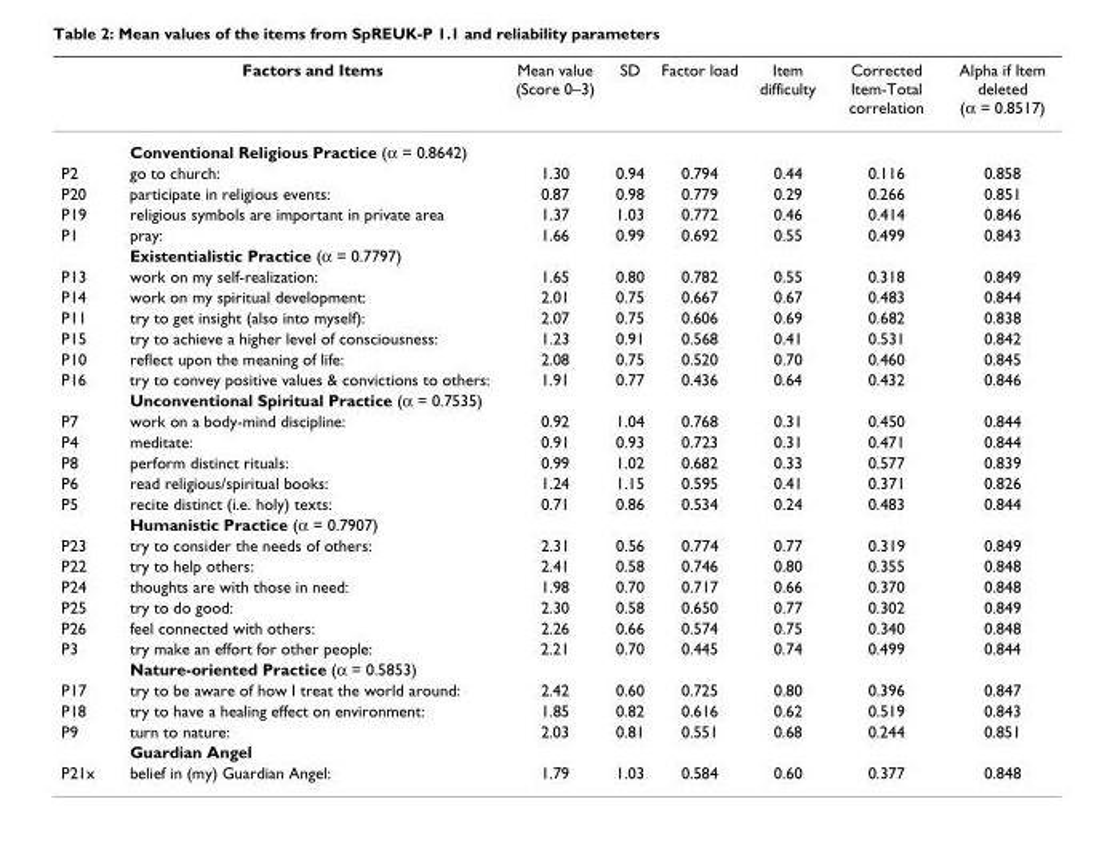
<table><thead><tr><td></td><td>Factors and Items</td><td>Mean value (Score 0–3)</td><td>SD</td><td>Factor load</td><td>Item difficulty</td><td>Corrected Item-Total correlation</td><td>Alpha if Item deleted (α = 0.8517)</td></tr></thead><tbody><tr><td></td><td>Conventional Religious Practice (α = 0.8642)</td><td></td><td></td><td></td><td></td><td></td><td></td></tr><tr><td>P2</td><td>go to church:</td><td>1.30</td><td>0.94</td><td>0.794</td><td>0.44</td><td>0.116</td><td>0.858</td></tr><tr><td>P20</td><td>participate in religious events:</td><td>0.87</td><td>0.98</td><td>0.779</td><td>0.29</td><td>0.266</td><td>0.851</td></tr><tr><td>P19</td><td>religious symbols are important in private area</td><td>1.37</td><td>1.03</td><td>0.772</td><td>0.46</td><td>0.414</td><td>0.846</td></tr><tr><td rowspan="2">P1</td><td>pray:</td><td>1.66</td><td>0.99</td><td>0.692</td><td>0.55</td><td>0.499</td><td>0.843</td></tr><tr><td>Existentialistic Practice (α = 0.7797)</td><td></td><td></td><td></td><td></td><td></td><td></td></tr><tr><td>P13</td><td>work on my self-realization:</td><td>1.65</td><td>0.80</td><td>0.782</td><td>0.55</td><td>0.318</td><td>0.849</td></tr><tr><td>P14</td><td>work on my spiritual development:</td><td>2.01</td><td>0.75</td><td>0.667</td><td>0.67</td><td>0.483</td><td>0.844</td></tr><tr><td>P11</td><td>try to get insight (also into myself):</td><td>2.07</td><td>0.75</td><td>0.606</td><td>0.69</td><td>0.682</td><td>0.838</td></tr><tr><td>P15</td><td>try to achieve a higher level of consciousness:</td><td>1.23</td><td>0.91</td><td>0.568</td><td>0.41</td><td>0.531</td><td>0.842</td></tr><tr><td>P10</td><td>reflect upon the meaning of life:</td><td>2.08</td><td>0.75</td><td>0.520</td><td>0.70</td><td>0.460</td><td>0.845</td></tr><tr><td rowspan="2">P16</td><td>try to convey positive values &amp; convictions to others:</td><td>1.91</td><td>0.77</td><td>0.436</td><td>0.64</td><td>0.432</td><td>0.846</td></tr><tr><td>Unconventional Spiritual Practice (α = 0.7535)</td><td></td><td></td><td></td><td></td><td></td><td></td></tr><tr><td>P7</td><td>work on a body-mind discipline:</td><td>0.92</td><td>1.04</td><td>0.768</td><td>0.31</td><td>0.450</td><td>0.844</td></tr><tr><td>P4</td><td>meditate:</td><td>0.91</td><td>0.93</td><td>0.723</td><td>0.31</td><td>0.471</td><td>0.844</td></tr><tr><td>P8</td><td>perform distinct rituals:</td><td>0.99</td><td>1.02</td><td>0.682</td><td>0.33</td><td>0.577</td><td>0.839</td></tr><tr><td>P6</td><td>read religious/spiritual books:</td><td>1.24</td><td>1.15</td><td>0.595</td><td>0.41</td><td>0.371</td><td>0.826</td></tr><tr><td rowspan="2">P5</td><td>recite distinct (i.e. holy) texts:</td><td>0.71</td><td>0.86</td><td>0.534</td><td>0.24</td><td>0.483</td><td>0.844</td></tr><tr><td>Humanistic Practice (α = 0.7907)</td><td></td><td></td><td></td><td></td><td></td><td></td></tr><tr><td>P23</td><td>try to consider the needs of others:</td><td>2.31</td><td>0.56</td><td>0.774</td><td>0.77</td><td>0.319</td><td>0.849</td></tr><tr><td>P22</td><td>try to help others:</td><td>2.41</td><td>0.58</td><td>0.746</td><td>0.80</td><td>0.355</td><td>0.848</td></tr><tr><td>P24</td><td>thoughts are with those in need:</td><td>1.98</td><td>0.70</td><td>0.717</td><td>0.66</td><td>0.370</td><td>0.848</td></tr><tr><td>P25</td><td>try to do good:</td><td>2.30</td><td>0.58</td><td>0.650</td><td>0.77</td><td>0.302</td><td>0.849</td></tr><tr><td>P26</td><td>feel connected with others:</td><td>2.26</td><td>0.66</td><td>0.574</td><td>0.75</td><td>0.340</td><td>0.848</td></tr><tr><td rowspan="2">P3</td><td>try make an effort for other people:</td><td>2.21</td><td>0.70</td><td>0.445</td><td>0.74</td><td>0.499</td><td>0.844</td></tr><tr><td>Nature-oriented Practice (α = 0.5853)</td><td></td><td></td><td></td><td></td><td></td><td></td></tr><tr><td>P17</td><td>try to be aware of how I treat the world around:</td><td>2.42</td><td>0.60</td><td>0.725</td><td>0.80</td><td>0.396</td><td>0.847</td></tr><tr><td>P18</td><td>try to have a healing effect on environment:</td><td>1.85</td><td>0.82</td><td>0.616</td><td>0.62</td><td>0.519</td><td>0.843</td></tr><tr><td rowspan="2">P9</td><td>turn to nature:</td><td>2.03</td><td>0.81</td><td>0.551</td><td>0.68</td><td>0.244</td><td>0.851</td></tr><tr><td>Guardian Angel</td><td></td><td></td><td></td><td></td><td></td><td></td></tr><tr><td>P21x</td><td>belief in (my) Guardian Angel:</td><td>1.79</td><td>1.03</td><td>0.584</td><td>0.60</td><td>0.377</td><td>0.848</td></tr></tbody></table>